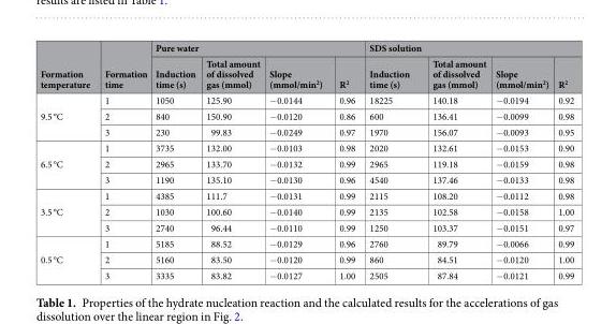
<table><thead><tr><td rowspan="2">Formation temperature</td><td rowspan="2">Formation time</td><td colspan="4">Pure water</td><td colspan="4">SDS solution</td></tr><tr><td>Induction time (s)</td><td>Total amount of dissolved gas (mmol)</td><td>Slope (mmol/min<sup>2</sup>)</td><td>R<sup>2</sup></td><td>Induction time (s)</td><td>Total amount of dissolved gas (mmol)</td><td>Slope (mmol/min<sup>2</sup>)</td><td>R<sup>2</sup></td></tr></thead><tbody><tr><td rowspan="3">9.5 °C</td><td>1</td><td>1050</td><td>125.90</td><td>−0.0144</td><td>0.96</td><td>18225</td><td>140.18</td><td>−0.0194</td><td>0.92</td></tr><tr><td>2</td><td>840</td><td>150.90</td><td>−0.0120</td><td>0.86</td><td>600</td><td>136.41</td><td>−0.0099</td><td>0.98</td></tr><tr><td>3</td><td>230</td><td>99.83</td><td>−0.0249</td><td>0.97</td><td>1970</td><td>156.07</td><td>−0.0093</td><td>0.95</td></tr><tr><td rowspan="3">6.5 °C</td><td>1</td><td>3735</td><td>132.00</td><td>−0.0103</td><td>0.98</td><td>2020</td><td>132.61</td><td>−0.0153</td><td>0.90</td></tr><tr><td>2</td><td>2965</td><td>133.70</td><td>−0.0132</td><td>0.99</td><td>2965</td><td>119.18</td><td>−0.0159</td><td>0.98</td></tr><tr><td>3</td><td>1190</td><td>135.10</td><td>−0.0130</td><td>0.96</td><td>4540</td><td>137.46</td><td>−0.0133</td><td>0.98</td></tr><tr><td rowspan="3">3.5 °C</td><td>1</td><td>4385</td><td>111.7</td><td>−0.0131</td><td>0.99</td><td>2115</td><td>108.20</td><td>−0.0112</td><td>0.98</td></tr><tr><td>2</td><td>1030</td><td>100.60</td><td>−0.0140</td><td>0.99</td><td>2135</td><td>102.58</td><td>−0.0158</td><td>1.00</td></tr><tr><td>3</td><td>2740</td><td>96.44</td><td>−0.0110</td><td>0.99</td><td>1250</td><td>103.37</td><td>−0.0151</td><td>0.97</td></tr><tr><td rowspan="3">0.5 °C</td><td>1</td><td>5185</td><td>88.52</td><td>−0.0129</td><td>0.96</td><td>2760</td><td>89.79</td><td>−0.0066</td><td>0.99</td></tr><tr><td>2</td><td>5160</td><td>83.50</td><td>−0.0120</td><td>0.99</td><td>860</td><td>84.51</td><td>−0.0120</td><td>1.00</td></tr><tr><td>3</td><td>3335</td><td>83.82</td><td>−0.0127</td><td>1.00</td><td>2505</td><td>87.84</td><td>−0.0121</td><td>0.99</td></tr></tbody></table>